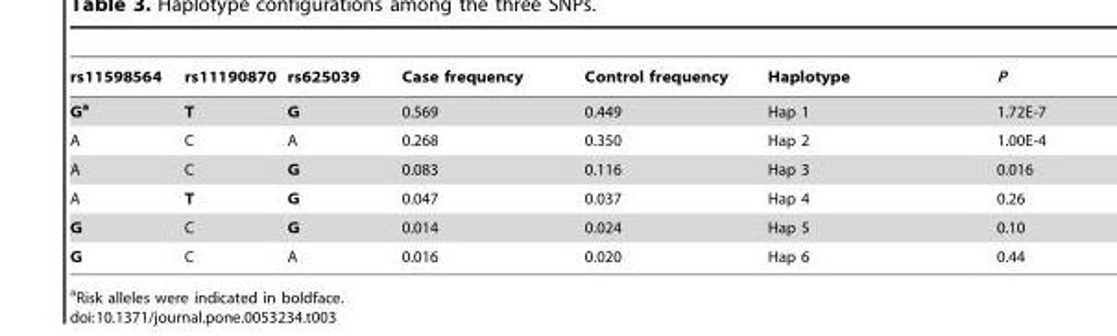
<table><thead><tr><td>rs11598564</td><td>rs11190870</td><td>rs625039</td><td>Case frequency</td><td>Control frequency</td><td>Haplotype</td><td>P</td></tr></thead><tbody><tr><td>Ga</td><td>T</td><td>G</td><td>0.569</td><td>0.449</td><td>Hap 1</td><td>1.72E-7</td></tr><tr><td>A</td><td>C</td><td>A</td><td>0.268</td><td>0.350</td><td>Hap 2</td><td>1.00E-4</td></tr><tr><td>A</td><td>C</td><td>G</td><td>0.083</td><td>0.116</td><td>Hap 3</td><td>0.016</td></tr><tr><td>A</td><td>T</td><td>G</td><td>0.047</td><td>0.037</td><td>Hap 4</td><td>0.26</td></tr><tr><td>G</td><td>C</td><td>G</td><td>0.014</td><td>0.024</td><td>Hap 5</td><td>0.10</td></tr><tr><td>G</td><td>C</td><td>A</td><td>0.016</td><td>0.020</td><td>Hap 6</td><td>0.44</td></tr></tbody></table>